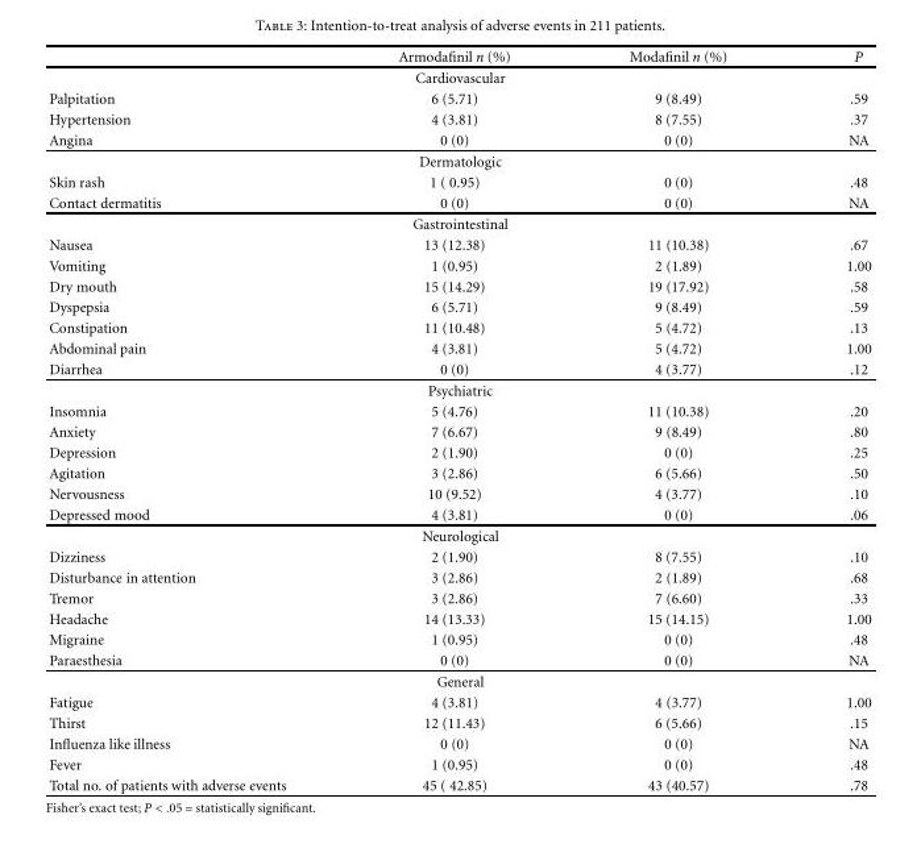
<table><thead><tr><td></td><td>Armodafinil n (%)</td><td>Modafinil n (%)</td><td>P</td></tr></thead><tbody><tr><td colspan="4">Cardiovascular</td></tr><tr><td>Palpitation</td><td>6 (5.71)</td><td>9 (8.49)</td><td>.59</td></tr><tr><td>Hypertension</td><td>4 (3.81)</td><td>8 (7.55)</td><td>.37</td></tr><tr><td>Angina</td><td>0 (0)</td><td>0 (0)</td><td>NA</td></tr><tr><td colspan="4">Dermatologic</td></tr><tr><td>Skin rash</td><td>1 ( 0.95)</td><td>0 (0)</td><td>.48</td></tr><tr><td>Contact dermatitis</td><td>0 (0)</td><td>0 (0)</td><td>NA</td></tr><tr><td colspan="4">Gastrointestinal</td></tr><tr><td>Nausea</td><td>13 (12.38)</td><td>11 (10.38)</td><td>.67</td></tr><tr><td>Vomiting</td><td>1 (0.95)</td><td>2 (1.89)</td><td>1.00</td></tr><tr><td>Dry mouth</td><td>15 (14.29)</td><td>19 (17.92)</td><td>.58</td></tr><tr><td>Dyspepsia</td><td>6 (5.71)</td><td>9 (8.49)</td><td>.59</td></tr><tr><td>Constipation</td><td>11 (10.48)</td><td>5 (4.72)</td><td>.13</td></tr><tr><td>Abdominal pain</td><td>4 (3.81)</td><td>5 (4.72)</td><td>1.00</td></tr><tr><td>Diarrhea</td><td>0 (0)</td><td>4 (3.77)</td><td>.12</td></tr><tr><td colspan="4">Psychiatric</td></tr><tr><td>Insomnia</td><td>5 (4.76)</td><td>11 (10.38)</td><td>.20</td></tr><tr><td>Anxiety</td><td>7 (6.67)</td><td>9 (8.49)</td><td>.80</td></tr><tr><td>Depression</td><td>2 (1.90)</td><td>0 (0)</td><td>.25</td></tr><tr><td>Agitation</td><td>3 (2.86)</td><td>6 (5.66)</td><td>.50</td></tr><tr><td>Nervousness</td><td>10 (9.52)</td><td>4 (3.77)</td><td>.10</td></tr><tr><td>Depressed mood</td><td>4 (3.81)</td><td>0 (0)</td><td>.06</td></tr><tr><td colspan="4">Neurological</td></tr><tr><td>Dizziness</td><td>2 (1.90)</td><td>8 (7.55)</td><td>.10</td></tr><tr><td>Disturbance in attention</td><td>3 (2.86)</td><td>2 (1.89)</td><td>.68</td></tr><tr><td>Tremor</td><td>3 (2.86)</td><td>7 (6.60)</td><td>.33</td></tr><tr><td>Headache</td><td>14 (13.33)</td><td>15 (14.15)</td><td>1.00</td></tr><tr><td>Migraine</td><td>1 (0.95)</td><td>0 (0)</td><td>.48</td></tr><tr><td>Paraesthesia</td><td>0 (0)</td><td>0 (0)</td><td>NA</td></tr><tr><td colspan="4">General</td></tr><tr><td>Fatigue</td><td>4 (3.81)</td><td>4 (3.77)</td><td>1.00</td></tr><tr><td>Thirst</td><td>12 (11.43)</td><td>6 (5.66)</td><td>.15</td></tr><tr><td>Influenza like illness</td><td>0 (0)</td><td>0 (0)</td><td>NA</td></tr><tr><td>Fever</td><td>1 (0.95)</td><td>0 (0)</td><td>.48</td></tr><tr><td>Total no. of patients with adverse events</td><td>45 ( 42.85)</td><td>43 (40.57)</td><td>.78</td></tr></tbody></table>